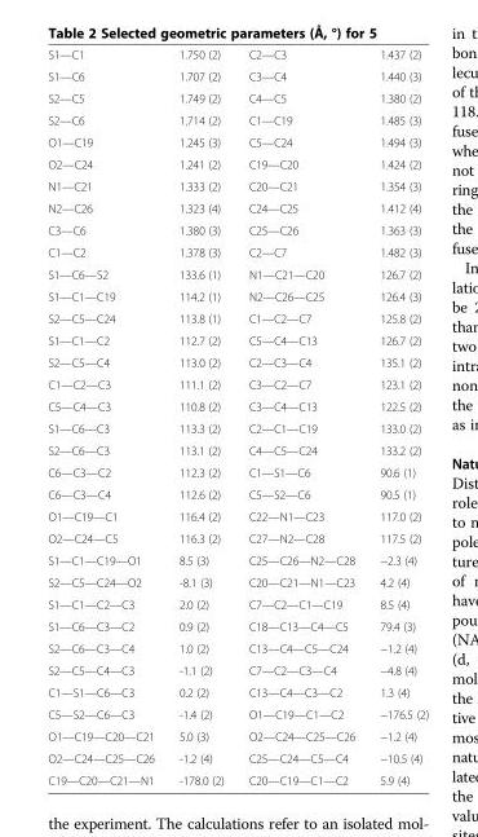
<table><tbody><tr><td>S1—C1</td><td>1.750 (2)</td><td>C2—C3</td><td>1.437 (2)</td></tr><tr><td>S1—C6</td><td>1.707 (2)</td><td>C3—C4</td><td>1.440 (3)</td></tr><tr><td>S2—C5</td><td>1.749 (2)</td><td>C4—C5</td><td>1.380 (2)</td></tr><tr><td>S2—C6</td><td>1.714 (2)</td><td>C1—C19</td><td>1.485 (3)</td></tr><tr><td>O1—C19</td><td>1.245 (3)</td><td>C5—C24</td><td>1.494 (3)</td></tr><tr><td>O2—C24</td><td>1.241 (2)</td><td>C19—C20</td><td>1.424 (2)</td></tr><tr><td>N1—C21</td><td>1.333 (2)</td><td>C20—C21</td><td>1.354 (3)</td></tr><tr><td>N2—C26</td><td>1.323 (4)</td><td>C24—C25</td><td>1.412 (4)</td></tr><tr><td>C3—C6</td><td>1.380 (3)</td><td>C25—C26</td><td>1.363 (3)</td></tr><tr><td>C1—C2</td><td>1.378 (3)</td><td>C2—C7</td><td>1.482 (3)</td></tr><tr><td>S1—C6—S2</td><td>133.6 (1)</td><td>N1—C21—C20</td><td>126.7 (2)</td></tr><tr><td>S1—C1—C19</td><td>114.2 (1)</td><td>N2—C26—C25</td><td>126.4 (3)</td></tr><tr><td>S2—C5—C24</td><td>113.8 (1)</td><td>C1—C2—C7</td><td>125.8 (2)</td></tr><tr><td>S1—C1—C2</td><td>112.7 (2)</td><td>C5—C4—C13</td><td>126.7 (2)</td></tr><tr><td>S2—C5—C4</td><td>113.0 (2)</td><td>C2—C3—C4</td><td>135.1 (2)</td></tr><tr><td>C1—C2—C3</td><td>111.1 (2)</td><td>C3—C2—C7</td><td>123.1 (2)</td></tr><tr><td>C5—C4—C3</td><td>110.8 (2)</td><td>C3—C4—C13</td><td>122.5 (2)</td></tr><tr><td>S1—C6—C3</td><td>113.3 (2)</td><td>C2—C1—C19</td><td>133.0 (2)</td></tr><tr><td>S2—C6—C3</td><td>113.1 (2)</td><td>C4—C5—C24</td><td>133.2 (2)</td></tr><tr><td>C6—C3—C2</td><td>112.3 (2)</td><td>C1—S1—C6</td><td>90.6 (1)</td></tr><tr><td>C6—C3—C4</td><td>112.6 (2)</td><td>C5—S2—C6</td><td>90.5 (1)</td></tr><tr><td>O1—C19—C1</td><td>116.4 (2)</td><td>C22—N1—C23</td><td>117.0 (2)</td></tr><tr><td>O2—C24—C5</td><td>116.3 (2)</td><td>C27—N2—C28</td><td>117.5 (2)</td></tr><tr><td>S1—C1—C19—O1</td><td>8.5 (3)</td><td>C25—C26—N2—C28</td><td>−2.3 (4)</td></tr><tr><td>S2—C5—C24—O2</td><td>-8.1 (3)</td><td>C20—C21—N1—C23</td><td>4.2 (4)</td></tr><tr><td>S1—C1—C2—C3</td><td>2.0 (2)</td><td>C7—C2—C1—C19</td><td>8.5 (4)</td></tr><tr><td>S1—C6—C3—C2</td><td>0.9 (2)</td><td>C18—C13—C4—C5</td><td>79.4 (3)</td></tr><tr><td>S2—C6—C3—C4</td><td>1.0 (2)</td><td>C13—C4—C5—C24</td><td>−1.2 (4)</td></tr><tr><td>S2—C5—C4—C3</td><td>-1.1 (2)</td><td>C7—C2—C3—C4</td><td>−4.8 (4)</td></tr><tr><td>C1—S1—C6—C3</td><td>0.2 (2)</td><td>C13—C4—C3—C2</td><td>1.3 (4)</td></tr><tr><td>C5—S2—C6—C3</td><td>-1.4 (2)</td><td>O1—C19—C1—C2</td><td>−176.5 (2)</td></tr><tr><td>O1—C19—C20—C21</td><td>5.0 (3)</td><td>O2—C24—C25—C26</td><td>−1.2 (4)</td></tr><tr><td>O2—C24—C25—C26</td><td>-1.2 (4)</td><td>C25—C24—C5—C4</td><td>−10.5 (4)</td></tr><tr><td>C19—C20—C21—N1</td><td>-178.0 (2)</td><td>C20—C19—C1—C2</td><td>5.9 (4)</td></tr></tbody></table>